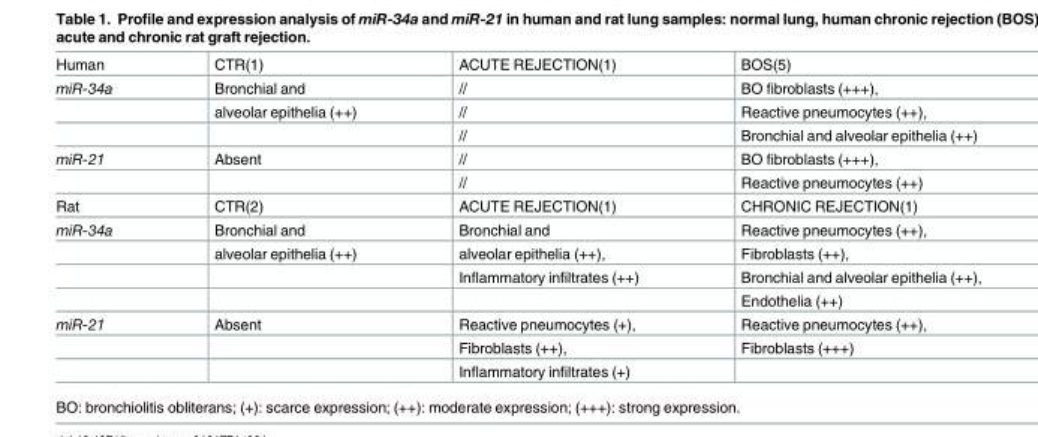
<table><tbody><tr><td>Human</td><td>CTR(1)</td><td>ACUTE REJECTION(1)</td><td>BOS(5)</td></tr><tr><td rowspan="3">miR-34a</td><td>Bronchial and</td><td>//</td><td>BO fibroblasts (+++),</td></tr><tr><td>alveolar epithelia (++)</td><td>//</td><td>Reactive pneumocytes (++),</td></tr><tr><td></td><td>//</td><td>Bronchial and alveolar epithelia (++)</td></tr><tr><td rowspan="2">miR-21</td><td>Absent</td><td>//</td><td>BO fibroblasts (+++),</td></tr><tr><td></td><td>//</td><td>Reactive pneumocytes (++)</td></tr><tr><td>Rat</td><td>CTR(2)</td><td>ACUTE REJECTION(1)</td><td>CHRONIC REJECTION(1)</td></tr><tr><td rowspan="4">miR-34a</td><td>Bronchial and</td><td>Bronchial and</td><td>Reactive pneumocytes (++),</td></tr><tr><td>alveolar epithelia (++)</td><td>alveolar epithelia (++),</td><td>Fibroblasts (++),</td></tr><tr><td></td><td>Inflammatory infiltrates (++)</td><td>Bronchial and alveolar epithelia (++),</td></tr><tr><td></td><td></td><td>Endothelia (++)</td></tr><tr><td rowspan="3">miR-21</td><td>Absent</td><td>Reactive pneumocytes (+),</td><td>Reactive pneumocytes (++),</td></tr><tr><td></td><td>Fibroblasts (++),</td><td>Fibroblasts (+++)</td></tr><tr><td></td><td>Inflammatory infiltrates (+)</td><td></td></tr></tbody></table>